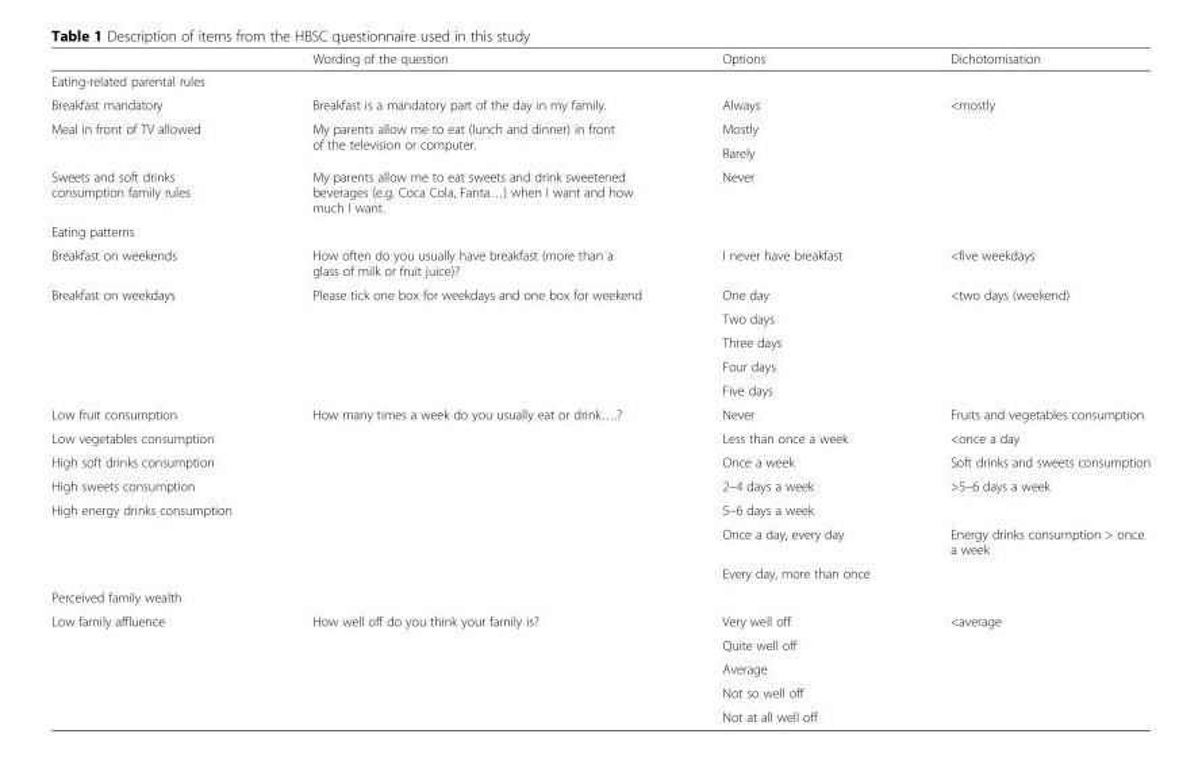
<table><thead><tr><td></td><td>Wording of the question</td><td>Options</td><td>Dichotomisation</td></tr></thead><tbody><tr><td colspan="4">Eating-related parental rules</td></tr><tr><td>Breakfast mandatory</td><td>Breakfast is a mandatory part of the day in my family.</td><td>Always</td><td>&lt;mostly</td></tr><tr><td rowspan="2">Meal in front of TV allowed</td><td rowspan="2">My parents allow me to eat (lunch and dinner) in front of the television or computer.</td><td>Mostly</td><td rowspan="2"></td></tr><tr><td>Rarely</td></tr><tr><td>Sweets and soft drinks consumption family rules</td><td>My parents allow me to eat sweets and drink sweetened beverages (e.g. Coca Cola, Fanta…) when I want and how much I want.</td><td>Never</td><td></td></tr><tr><td colspan="4">Eating patterns</td></tr><tr><td>Breakfast on weekends</td><td>How often do you usually have breakfast (more than a glass of milk or fruit juice)?</td><td>I never have breakfast</td><td>&lt;five weekdays</td></tr><tr><td rowspan="5">Breakfast on weekdays</td><td>Please tick one box for weekdays and one box for weekend</td><td>One day</td><td>&lt;two days (weekend)</td></tr><tr><td></td><td>Two days</td><td></td></tr><tr><td></td><td>Three days</td><td></td></tr><tr><td></td><td>Four days</td><td></td></tr><tr><td></td><td>Five days</td><td></td></tr><tr><td>Low fruit consumption</td><td>How many times a week do you usually eat or drink….?</td><td>Never</td><td>Fruits and vegetables consumption</td></tr><tr><td>Low vegetables consumption</td><td></td><td>Less than once a week</td><td>&lt;once a day</td></tr><tr><td>High soft drinks consumption</td><td></td><td>Once a week</td><td>Soft drinks and sweets consumption</td></tr><tr><td>High sweets consumption</td><td></td><td>2–4 days a week</td><td>&gt;5–6 days a week</td></tr><tr><td rowspan="3">High energy drinks consumption</td><td></td><td>5–6 days a week</td><td></td></tr><tr><td></td><td>Once a day, every day</td><td>Energy drinks consumption &gt; once a week</td></tr><tr><td></td><td>Every day, more than once</td><td></td></tr><tr><td colspan="4">Perceived family wealth</td></tr><tr><td rowspan="5">Low family affluence</td><td>How well off do you think your family is?</td><td>Very well off</td><td>&lt;average</td></tr><tr><td></td><td>Quite well off</td><td></td></tr><tr><td></td><td>Average</td><td></td></tr><tr><td></td><td>Not so well off</td><td></td></tr><tr><td></td><td>Not at all well off</td><td></td></tr></tbody></table>